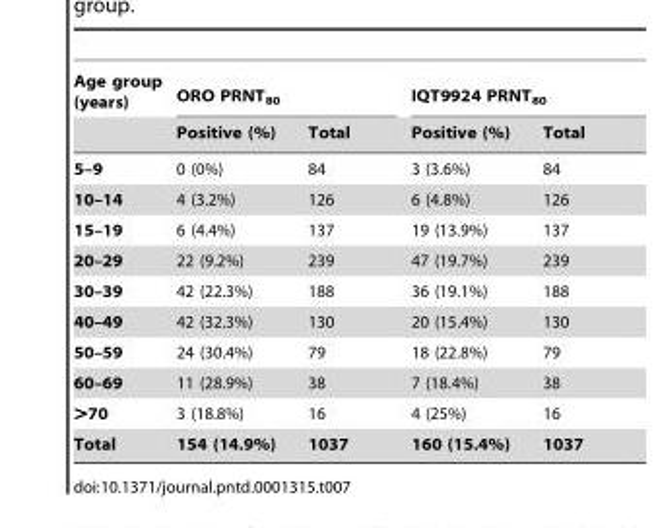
<table><thead><tr><td rowspan="2">Age group (years)</td><td colspan="2">ORO PRNT<sub>80</sub></td><td colspan="2">IQT9924 PRNT<sub>80</sub></td></tr><tr><td>Positive (%)</td><td>Total</td><td>Positive (%)</td><td>Total</td></tr></thead><tbody><tr><td>5–9</td><td>0 (0%)</td><td>84</td><td>3 (3.6%)</td><td>84</td></tr><tr><td>10–14</td><td>4 (3.2%)</td><td>126</td><td>6 (4.8%)</td><td>126</td></tr><tr><td>15–19</td><td>6 (4.4%)</td><td>137</td><td>19 (13.9%)</td><td>137</td></tr><tr><td>20–29</td><td>22 (9.2%)</td><td>239</td><td>47 (19.7%)</td><td>239</td></tr><tr><td>30–39</td><td>42 (22.3%)</td><td>188</td><td>36 (19.1%)</td><td>188</td></tr><tr><td>40–49</td><td>42 (32.3%)</td><td>130</td><td>20 (15.4%)</td><td>130</td></tr><tr><td>50–59</td><td>24 (30.4%)</td><td>79</td><td>18 (22.8%)</td><td>79</td></tr><tr><td>60–69</td><td>11 (28.9%)</td><td>38</td><td>7 (18.4%)</td><td>38</td></tr><tr><td>&gt;70</td><td>3 (18.8%)</td><td>16</td><td>4 (25%)</td><td>16</td></tr><tr><td>Total</td><td>154 (14.9%)</td><td>1037</td><td>160 (15.4%)</td><td>1037</td></tr></tbody></table>